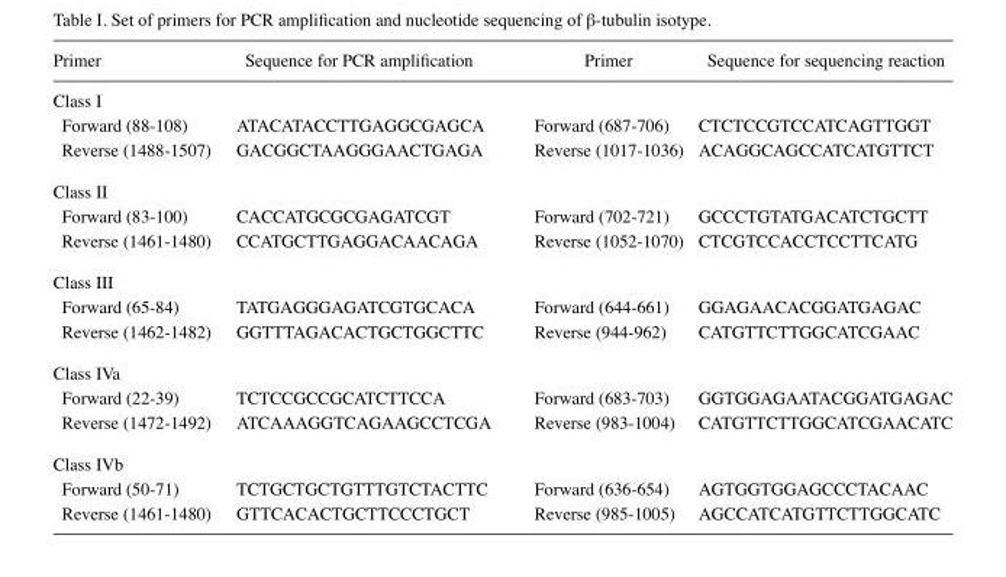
<table><thead><tr><td>Primer</td><td>Sequence for PCR amplification</td><td>Primer</td><td>Sequence for sequencing reaction</td></tr></thead><tbody><tr><td colspan="4">Class I</td></tr><tr><td>Forward (88-108)</td><td>ATACATACCTTGAGGCGAGCA</td><td>Forward (687-706)</td><td>CTCTCCGTCCATCAGTTGGT</td></tr><tr><td>Reverse (1488-1507)</td><td>GACGGCTAAGGGAACTGAGA</td><td>Reverse (1017-1036)</td><td>ACAGGCAGCCATCATGTTCT</td></tr><tr><td colspan="4">Class II</td></tr><tr><td>Forward (83-100)</td><td>CACCATGCGCGAGATCGT</td><td>Forward (702-721)</td><td>GCCCTGTATGACATCTGCTT</td></tr><tr><td>Reverse (1461-1480)</td><td>CCATGCTTGAGGACAACAGA</td><td>Reverse (1052-1070)</td><td>CTCGTCCACCTCCTTCATG</td></tr><tr><td colspan="4">Class III</td></tr><tr><td>Forward (65-84)</td><td>TATGAGGGAGATCGTGCACA</td><td>Forward (644-661)</td><td>GGAGAACACGGATGAGAC</td></tr><tr><td>Reverse (1462-1482)</td><td>GGTTTAGACACTGCTGGCTTC</td><td>Reverse (944-962)</td><td>CATGTTCTTGGCATCGAAC</td></tr><tr><td colspan="4">Class IVa</td></tr><tr><td>Forward (22-39)</td><td>TCTCCGCCGCATCTTCCA</td><td>Forward (683-703)</td><td>GGTGGAGAATACGGATGAGAC</td></tr><tr><td>Reverse (1472-1492)</td><td>ATCAAAGGTCAGAAGCCTCGA</td><td>Reverse (983-1004)</td><td>CATGTTCTTGGCATCGAACATC</td></tr><tr><td colspan="4">Class IVb</td></tr><tr><td>Forward (50-71)</td><td>TCTGCTGCTGTTTGTCTACTTC</td><td>Forward (636-654)</td><td>AGTGGTGGAGCCCTACAAC</td></tr><tr><td>Reverse (1461-1480)</td><td>GTTCACACTGCTTCCCTGCT</td><td>Reverse (985-1005)</td><td>AGCCATCATGTTCTTGGCATC</td></tr></tbody></table>